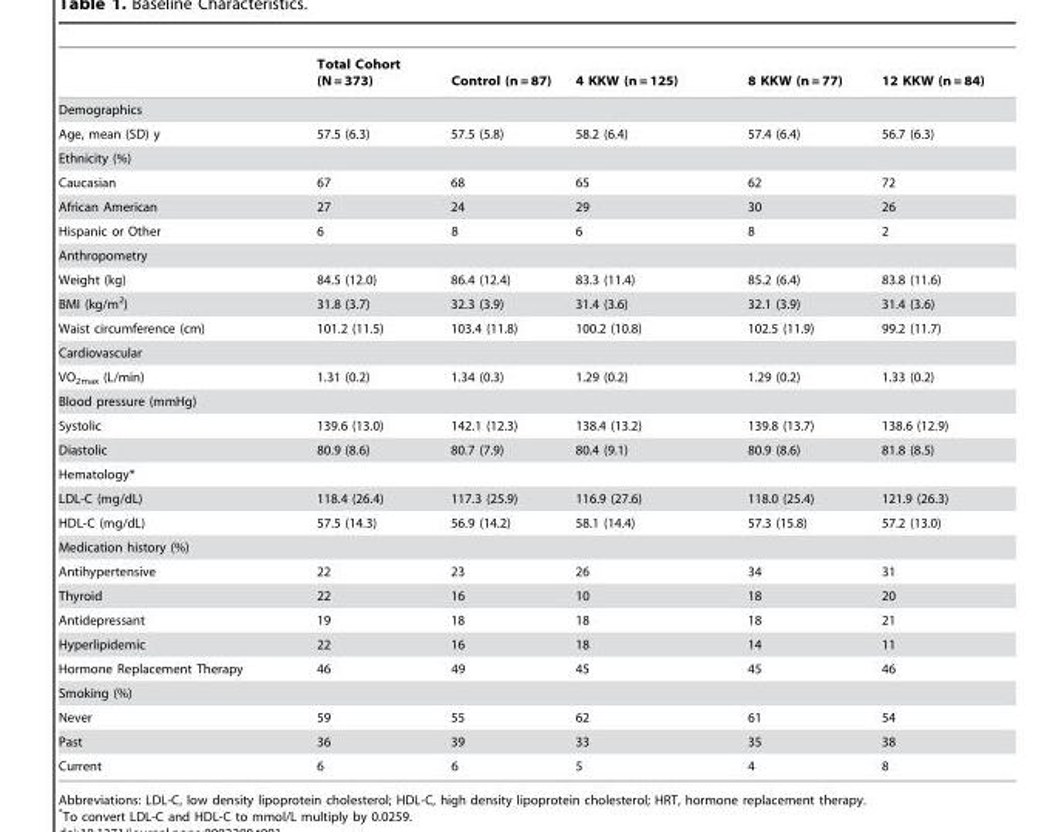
<table><thead><tr><td></td><td>Total Cohort (N = 373)</td><td>Control (n = 87)</td><td>4 KKW (n = 125)</td><td>8 KKW (n = 77)</td><td>12 KKW (n = 84)</td></tr></thead><tbody><tr><td colspan="6">Demographics</td></tr><tr><td>Age, mean (SD) y</td><td>57.5 (6.3)</td><td>57.5 (5.8)</td><td>58.2 (6.4)</td><td>57.4 (6.4)</td><td>56.7 (6.3)</td></tr><tr><td colspan="6">Ethnicity (%)</td></tr><tr><td>Caucasian</td><td>67</td><td>68</td><td>65</td><td>62</td><td>72</td></tr><tr><td>African American</td><td>27</td><td>24</td><td>29</td><td>30</td><td>26</td></tr><tr><td>Hispanic or Other</td><td>6</td><td>8</td><td>6</td><td>8</td><td>2</td></tr><tr><td colspan="6">Anthropometry</td></tr><tr><td>Weight (kg)</td><td>84.5 (12.0)</td><td>86.4 (12.4)</td><td>83.3 (11.4)</td><td>85.2 (6.4)</td><td>83.8 (11.6)</td></tr><tr><td>BMI (kg/m<sup>2</sup>)</td><td>31.8 (3.7)</td><td>32.3 (3.9)</td><td>31.4 (3.6)</td><td>32.1 (3.9)</td><td>31.4 (3.6)</td></tr><tr><td>Waist circumference (cm)</td><td>101.2 (11.5)</td><td>103.4 (11.8)</td><td>100.2 (10.8)</td><td>102.5 (11.9)</td><td>99.2 (11.7)</td></tr><tr><td colspan="6">Cardiovascular</td></tr><tr><td>VO<sub>2max</sub> (L/min)</td><td>1.31 (0.2)</td><td>1.34 (0.3)</td><td>1.29 (0.2)</td><td>1.29 (0.2)</td><td>1.33 (0.2)</td></tr><tr><td colspan="6">Blood pressure (mmHg)</td></tr><tr><td>Systolic</td><td>139.6 (13.0)</td><td>142.1 (12.3)</td><td>138.4 (13.2)</td><td>139.8 (13.7)</td><td>138.6 (12.9)</td></tr><tr><td>Diastolic</td><td>80.9 (8.6)</td><td>80.7 (7.9)</td><td>80.4 (9.1)</td><td>80.9 (8.6)</td><td>81.8 (8.5)</td></tr><tr><td colspan="6">Hematology*</td></tr><tr><td>LDL-C (mg/dL)</td><td>118.4 (26.4)</td><td>117.3 (25.9)</td><td>116.9 (27.6)</td><td>118.0 (25.4)</td><td>121.9 (26.3)</td></tr><tr><td>HDL-C (mg/dL)</td><td>57.5 (14.3)</td><td>56.9 (14.2)</td><td>58.1 (14.4)</td><td>57.3 (15.8)</td><td>57.2 (13.0)</td></tr><tr><td colspan="6">Medication history (%)</td></tr><tr><td>Antihypertensive</td><td>22</td><td>23</td><td>26</td><td>34</td><td>31</td></tr><tr><td>Thyroid</td><td>22</td><td>16</td><td>10</td><td>18</td><td>20</td></tr><tr><td>Antidepressant</td><td>19</td><td>18</td><td>18</td><td>18</td><td>21</td></tr><tr><td>Hyperlipidemic</td><td>22</td><td>16</td><td>18</td><td>14</td><td>11</td></tr><tr><td>Hormone Replacement Therapy</td><td>46</td><td>49</td><td>45</td><td>45</td><td>46</td></tr><tr><td colspan="6">Smoking (%)</td></tr><tr><td>Never</td><td>59</td><td>55</td><td>62</td><td>61</td><td>54</td></tr><tr><td>Past</td><td>36</td><td>39</td><td>33</td><td>35</td><td>38</td></tr><tr><td>Current</td><td>6</td><td>6</td><td>5</td><td>4</td><td>8</td></tr></tbody></table>